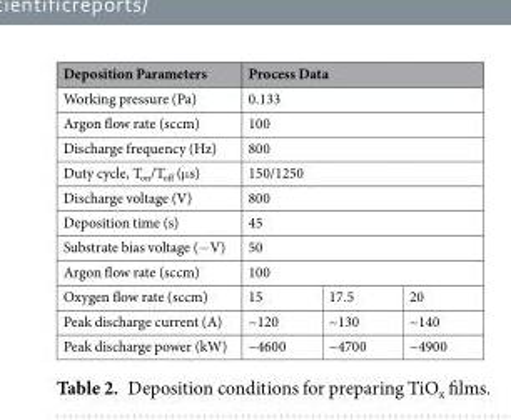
<table><thead><tr><td>Deposition Parameters</td><td colspan="3">Process Data</td></tr></thead><tbody><tr><td>Working pressure (Pa)</td><td colspan="3">0.133</td></tr><tr><td>Argon flow rate (sccm)</td><td colspan="3">100</td></tr><tr><td>Discharge frequency (Hz)</td><td colspan="3">800</td></tr><tr><td>Duty cycle, T<sub>on</sub>/T<sub>off</sub> (μs)</td><td colspan="3">150/1250</td></tr><tr><td>Discharge voltage (V)</td><td colspan="3">800</td></tr><tr><td>Deposition time (s)</td><td colspan="3">45</td></tr><tr><td>Substrate bias voltage (−V)</td><td colspan="3">50</td></tr><tr><td>Argon flow rate (sccm)</td><td colspan="3">100</td></tr><tr><td>Oxygen flow rate (sccm)</td><td>15</td><td>17.5</td><td>20</td></tr><tr><td>Peak discharge current (A)</td><td>~120</td><td>~130</td><td>~140</td></tr><tr><td>Peak discharge power (kW)</td><td>~4600</td><td>~4700</td><td>~4900</td></tr></tbody></table>